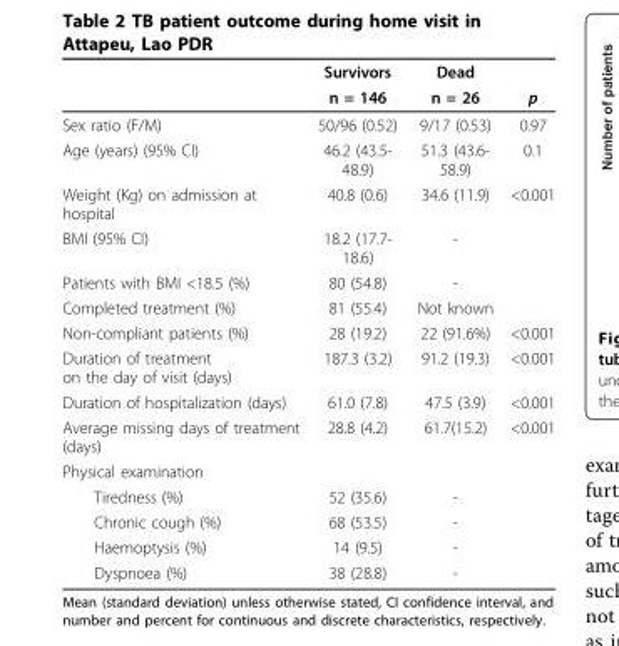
<table><thead><tr><td rowspan="2"></td><td rowspan="2">Survivors n = 146</td><td rowspan="2">Dead n = 26</td><td rowspan="2">p</td></tr><tr></tr></thead><tbody><tr><td>Sex ratio (F/M)</td><td>50/96 (0.52)</td><td>9/17 (0.53)</td><td>0.97</td></tr><tr><td>Age (years) (95% CI)</td><td>46.2 (43.5- 48.9)</td><td>51.3 (43.6- 58.9)</td><td>0.1</td></tr><tr><td>Weight (Kg) on admission at hospital</td><td>40.8 (0.6)</td><td>34.6 (11.9)</td><td>&lt;0.001</td></tr><tr><td>BMI (95% CI)</td><td>18.2 (17.7- 18.6)</td><td>-</td><td></td></tr><tr><td>Patients with BMI &lt;18.5 (%)</td><td>80 (54.8)</td><td>-</td><td></td></tr><tr><td>Completed treatment (%)</td><td>81 (55.4)</td><td>Not known</td><td></td></tr><tr><td>Non-compliant patients (%)</td><td>28 (19.2)</td><td>22 (91.6%)</td><td>&lt;0.001</td></tr><tr><td>Duration of treatment on the day of visit (days)</td><td>187.3 (3.2)</td><td>91.2 (19.3)</td><td>&lt;0.001</td></tr><tr><td>Duration of hospitalization (days)</td><td>61.0 (7.8)</td><td>47.5 (3.9)</td><td>&lt;0.001</td></tr><tr><td>Average missing days of treatment (days)</td><td>28.8 (4.2)</td><td>61.7(15.2)</td><td>&lt;0.001</td></tr><tr><td colspan="4">Physical examination</td></tr><tr><td>Tiredness (%)</td><td>52 (35.6)</td><td>-</td><td></td></tr><tr><td>Chronic cough (%)</td><td>68 (53.5)</td><td>-</td><td></td></tr><tr><td>Haemoptysis (%)</td><td>14 (9.5)</td><td>-</td><td></td></tr><tr><td>Dyspnoea (%)</td><td>38 (28.8)</td><td>-</td><td></td></tr></tbody></table>